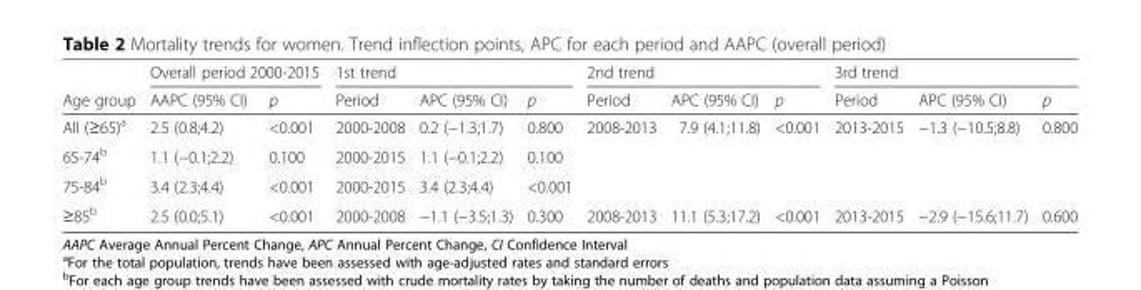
<table><thead><tr><td rowspan="2">Age group</td><td colspan="2">Overall period 2000-2015</td><td colspan="3">1st trend</td><td colspan="3">2nd trend</td><td colspan="3">3rd trend</td></tr><tr><td>AAPC (95% CI)</td><td>p</td><td>Period</td><td>APC (95% CI)</td><td>p</td><td>Period</td><td>APC (95% CI)</td><td>p</td><td>Period</td><td>APC (95% CI)</td><td>p</td></tr></thead><tbody><tr><td>All (≥65)<sup>a</sup></td><td>2.5 (0.8;4.2)</td><td>&lt;0.001</td><td>2000-2008</td><td>0.2 (−1.3;1.7)</td><td>0.800</td><td>2008-2013</td><td>7.9 (4.1;11.8)</td><td>&lt;0.001</td><td>2013-2015</td><td>−1.3 (−10.5;8.8)</td><td>0.800</td></tr><tr><td>65-74<sup>b</sup></td><td>1.1 (−0.1;2.2)</td><td>0.100</td><td>2000-2015</td><td>1.1 (−0.1;2.2)</td><td>0.100</td><td></td><td></td><td></td><td></td><td></td><td></td></tr><tr><td>75-84<sup>b</sup></td><td>3.4 (2.3;4.4)</td><td>&lt;0.001</td><td>2000-2015</td><td>3.4 (2.3;4.4)</td><td>&lt;0.001</td><td></td><td></td><td></td><td></td><td></td><td></td></tr><tr><td>≥85<sup>b</sup></td><td>2.5 (0.0;5.1)</td><td>&lt;0.001</td><td>2000-2008</td><td>−1.1 (−3.5;1.3)</td><td>0.300</td><td>2008-2013</td><td>11.1 (5.3;17.2)</td><td>&lt;0.001</td><td>2013-2015</td><td>−2.9 (−15.6;11.7)</td><td>0.600</td></tr></tbody></table>